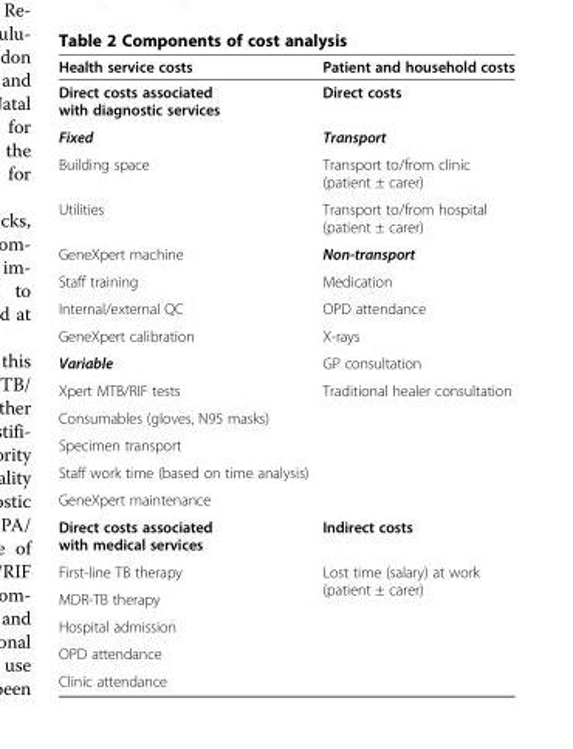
<table><thead><tr><td>Health service costs</td><td>Patient and household costs</td></tr></thead><tbody><tr><td>Direct costs associated with diagnostic services</td><td>Direct costs</td></tr><tr><td>Fixed</td><td>Transport</td></tr><tr><td>Building space</td><td>Transport to/from clinic (patient ± carer)</td></tr><tr><td>Utilities</td><td>Transport to/from hospital (patient ± carer)</td></tr><tr><td>GeneXpert machine</td><td>Non-transport</td></tr><tr><td>Staff training</td><td>Medication</td></tr><tr><td>Internal/external QC</td><td>OPD attendance</td></tr><tr><td>GeneXpert calibration</td><td>X-rays</td></tr><tr><td>Variable</td><td>GP consultation</td></tr><tr><td>Xpert MTB/RIF tests</td><td rowspan="5">Traditional healer consultation</td></tr><tr><td>Consumables (gloves, N95 masks)</td></tr><tr><td>Specimen transport</td></tr><tr><td>Staff work time (based on time analysis)</td></tr><tr><td>GeneXpert maintenance</td></tr><tr><td>Direct costs associated with medical services</td><td>Indirect costs</td></tr><tr><td>First-line TB therapy</td><td rowspan="4">Lost time (salary) at work (patient ± carer)</td></tr><tr><td>MDR-TB therapy</td></tr><tr><td>Hospital admission</td></tr><tr><td>OPD attendance</td></tr><tr><td>Clinic attendance</td><td></td></tr></tbody></table>